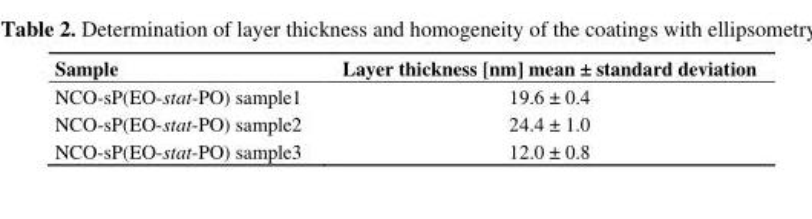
<table><thead><tr><td>Sample</td><td>Layer thickness [nm] mean ± standard deviation</td></tr></thead><tbody><tr><td>NCO-sP(EO-stat-PO) sample1</td><td>19.6 ± 0.4</td></tr><tr><td>NCO-sP(EO-stat-PO) sample2</td><td>24.4 ± 1.0</td></tr><tr><td>NCO-sP(EO-stat-PO) sample3</td><td>12.0 ± 0.8</td></tr></tbody></table>